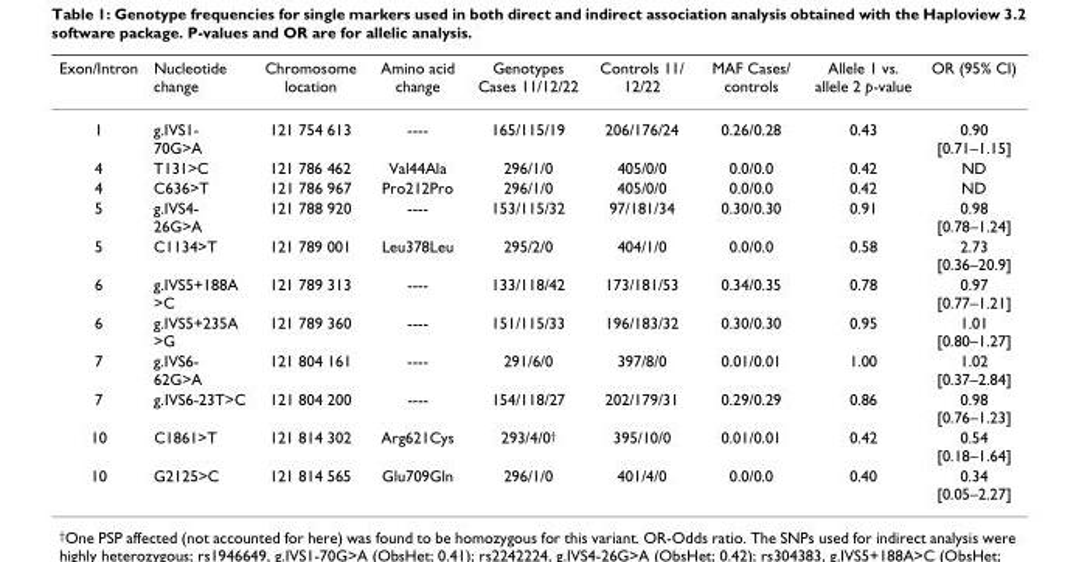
<table><thead><tr><td>Exon/Intron</td><td>Nucleotide change</td><td>Chromosome location</td><td>Amino acid change</td><td>Genotypes Cases 11/12/22</td><td>Controls 11/ 12/22</td><td>MAF Cases/ controls</td><td>Allele 1 vs. allele 2 p-value</td><td>OR (95% CI)</td></tr></thead><tbody><tr><td>1</td><td>g.IVS1- 70G&gt;A</td><td>121 754 613</td><td>----</td><td>165/115/19</td><td>206/176/24</td><td>0.26/0.28</td><td>0.43</td><td>0.90 [0.71–1.15]</td></tr><tr><td>4</td><td>T131&gt;C</td><td>121 786 462</td><td>Val44Ala</td><td>296/1/0</td><td>405/0/0</td><td>0.0/0.0</td><td>0.42</td><td>ND</td></tr><tr><td>4</td><td>C636&gt;T</td><td>121 786 967</td><td>Pro212Pro</td><td>296/1/0</td><td>405/0/0</td><td>0.0/0.0</td><td>0.42</td><td>ND</td></tr><tr><td>5</td><td>g.IVS4- 26G&gt;A</td><td>121 788 920</td><td>----</td><td>153/115/32</td><td>97/181/34</td><td>0.30/0.30</td><td>0.91</td><td>0.98 [0.78–1.24]</td></tr><tr><td>5</td><td>C1134&gt;T</td><td>121 789 001</td><td>Leu378Leu</td><td>295/2/0</td><td>404/1/0</td><td>0.0/0.0</td><td>0.58</td><td>2.73 [0.36–20.9]</td></tr><tr><td>6</td><td>g.IVS5+188A &gt;C</td><td>121 789 313</td><td>----</td><td>133/118/42</td><td>173/181/53</td><td>0.34/0.35</td><td>0.78</td><td>0.97 [0.77–1.21]</td></tr><tr><td>6</td><td>g.IVS5+235A &gt;G</td><td>121 789 360</td><td>----</td><td>151/115/33</td><td>196/183/32</td><td>0.30/0.30</td><td>0.95</td><td>1.01 [0.80–1.27]</td></tr><tr><td>7</td><td>g.IVS6- 62G&gt;A</td><td>121 804 161</td><td>----</td><td>291/6/0</td><td>397/8/0</td><td>0.01/0.01</td><td>1.00</td><td>1.02 [0.37–2.84]</td></tr><tr><td>7</td><td>g.IVS6-23T&gt;C</td><td>121 804 200</td><td>----</td><td>154/118/27</td><td>202/179/31</td><td>0.29/0.29</td><td>0.86</td><td>0.98 [0.76–1.23]</td></tr><tr><td>10</td><td>C1861&gt;T</td><td>121 814 302</td><td>Arg621Cys</td><td>293/4/0<sup>†</sup></td><td>395/10/0</td><td>0.01/0.01</td><td>0.42</td><td>0.54 [0.18–1.64]</td></tr><tr><td>10</td><td>G2125&gt;C</td><td>121 814 565</td><td>Glu709Gln</td><td>296/1/0</td><td>401/4/0</td><td>0.0/0.0</td><td>0.40</td><td>0.34 [0.05–2.27]</td></tr></tbody></table>